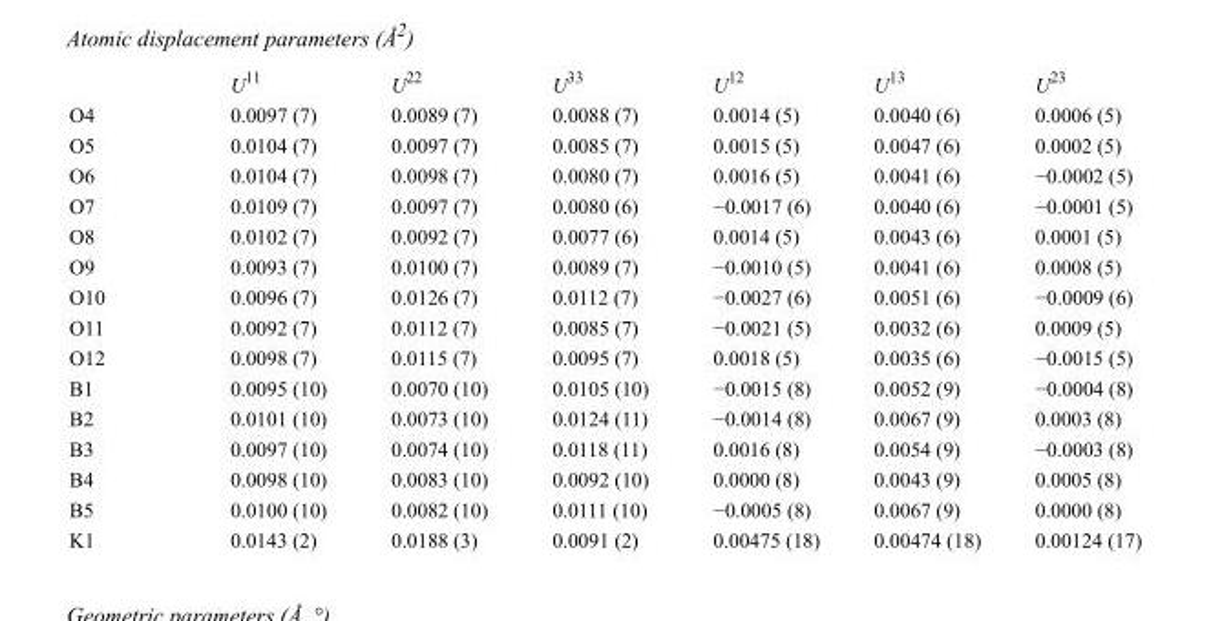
<table><thead><tr><td></td><td>U<sup>11</sup></td><td>U<sup>22</sup></td><td>U<sup>33</sup></td><td>U<sup>12</sup></td><td>U<sup>13</sup></td><td>U<sup>23</sup></td></tr></thead><tbody><tr><td>O4</td><td>0.0097 (7)</td><td>0.0089 (7)</td><td>0.0088 (7)</td><td>0.0014 (5)</td><td>0.0040 (6)</td><td>0.0006 (5)</td></tr><tr><td>O5</td><td>0.0104 (7)</td><td>0.0097 (7)</td><td>0.0085 (7)</td><td>0.0015 (5)</td><td>0.0047 (6)</td><td>0.0002 (5)</td></tr><tr><td>O6</td><td>0.0104 (7)</td><td>0.0098 (7)</td><td>0.0080 (7)</td><td>0.0016 (5)</td><td>0.0041 (6)</td><td>−0.0002 (5)</td></tr><tr><td>O7</td><td>0.0109 (7)</td><td>0.0097 (7)</td><td>0.0080 (6)</td><td>−0.0017 (6)</td><td>0.0040 (6)</td><td>−0.0001 (5)</td></tr><tr><td>O8</td><td>0.0102 (7)</td><td>0.0092 (7)</td><td>0.0077 (6)</td><td>0.0014 (5)</td><td>0.0043 (6)</td><td>0.0001 (5)</td></tr><tr><td>O9</td><td>0.0093 (7)</td><td>0.0100 (7)</td><td>0.0089 (7)</td><td>−0.0010 (5)</td><td>0.0041 (6)</td><td>0.0008 (5)</td></tr><tr><td>O10</td><td>0.0096 (7)</td><td>0.0126 (7)</td><td>0.0112 (7)</td><td>−0.0027 (6)</td><td>0.0051 (6)</td><td>−0.0009 (6)</td></tr><tr><td>O11</td><td>0.0092 (7)</td><td>0.0112 (7)</td><td>0.0085 (7)</td><td>−0.0021 (5)</td><td>0.0032 (6)</td><td>0.0009 (5)</td></tr><tr><td>O12</td><td>0.0098 (7)</td><td>0.0115 (7)</td><td>0.0095 (7)</td><td>0.0018 (5)</td><td>0.0035 (6)</td><td>−0.0015 (5)</td></tr><tr><td>B1</td><td>0.0095 (10)</td><td>0.0070 (10)</td><td>0.0105 (10)</td><td>−0.0015 (8)</td><td>0.0052 (9)</td><td>−0.0004 (8)</td></tr><tr><td>B2</td><td>0.0101 (10)</td><td>0.0073 (10)</td><td>0.0124 (11)</td><td>−0.0014 (8)</td><td>0.0067 (9)</td><td>0.0003 (8)</td></tr><tr><td>B3</td><td>0.0097 (10)</td><td>0.0074 (10)</td><td>0.0118 (11)</td><td>0.0016 (8)</td><td>0.0054 (9)</td><td>−0.0003 (8)</td></tr><tr><td>B4</td><td>0.0098 (10)</td><td>0.0083 (10)</td><td>0.0092 (10)</td><td>0.0000 (8)</td><td>0.0043 (9)</td><td>0.0005 (8)</td></tr><tr><td>B5</td><td>0.0100 (10)</td><td>0.0082 (10)</td><td>0.0111 (10)</td><td>−0.0005 (8)</td><td>0.0067 (9)</td><td>0.0000 (8)</td></tr><tr><td>K1</td><td>0.0143 (2)</td><td>0.0188 (3)</td><td>0.0091 (2)</td><td>0.00475 (18)</td><td>0.00474 (18)</td><td>0.00124 (17)</td></tr></tbody></table>